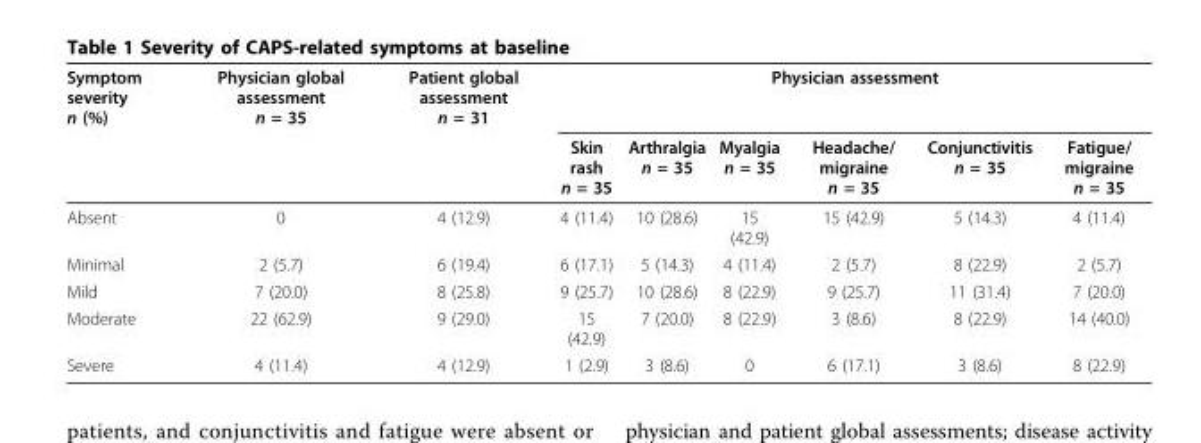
<table><thead><tr><td rowspan="2">Symptom severity n (%)</td><td rowspan="2">Physician global assessment n = 35</td><td rowspan="2">Patient global assessment n = 31</td><td colspan="6">Physician assessment</td></tr><tr><td>Skin rash n = 35</td><td>Arthralgia n = 35</td><td>Myalgia n = 35</td><td>Headache/ migraine n = 35</td><td>Conjunctivitis n = 35</td><td>Fatigue/ migraine n = 35</td></tr></thead><tbody><tr><td>Absent</td><td>0</td><td>4 (12.9)</td><td>4 (11.4)</td><td>10 (28.6)</td><td>15 (42.9)</td><td>15 (42.9)</td><td>5 (14.3)</td><td>4 (11.4)</td></tr><tr><td>Minimal</td><td>2 (5.7)</td><td>6 (19.4)</td><td>6 (17.1)</td><td>5 (14.3)</td><td>4 (11.4)</td><td>2 (5.7)</td><td>8 (22.9)</td><td>2 (5.7)</td></tr><tr><td>Mild</td><td>7 (20.0)</td><td>8 (25.8)</td><td>9 (25.7)</td><td>10 (28.6)</td><td>8 (22.9)</td><td>9 (25.7)</td><td>11 (31.4)</td><td>7 (20.0)</td></tr><tr><td>Moderate</td><td>22 (62.9)</td><td>9 (29.0)</td><td>15 (42.9)</td><td>7 (20.0)</td><td>8 (22.9)</td><td>3 (8.6)</td><td>8 (22.9)</td><td>14 (40.0)</td></tr><tr><td>Severe</td><td>4 (11.4)</td><td>4 (12.9)</td><td>1 (2.9)</td><td>3 (8.6)</td><td>0</td><td>6 (17.1)</td><td>3 (8.6)</td><td>8 (22.9)</td></tr></tbody></table>